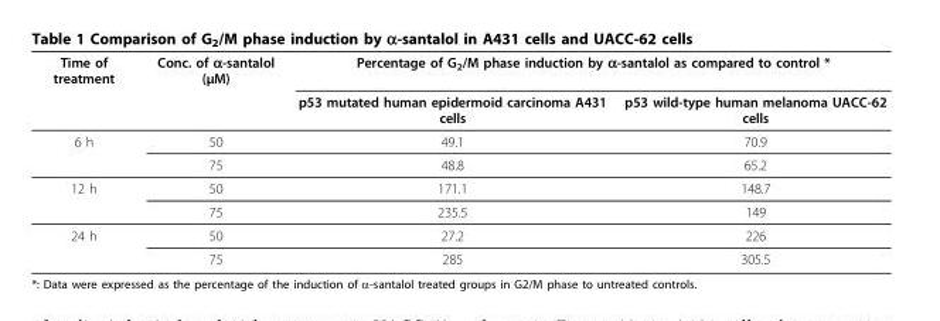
<table><thead><tr><td rowspan="2">Time of treatment</td><td rowspan="2">Conc. of α-santalol (μM)</td><td colspan="2">Percentage of G<sub>2</sub>/M phase induction by α-santalol as compared to control *</td></tr><tr><td>p53 mutated human epidermoid carcinoma A431 cells</td><td>p53 wild-type human melanoma UACC-62 cells</td></tr></thead><tbody><tr><td rowspan="2">6 h</td><td>50</td><td>49.1</td><td>70.9</td></tr><tr><td>75</td><td>48.8</td><td>65.2</td></tr><tr><td rowspan="2">12 h</td><td>50</td><td>171.1</td><td>148.7</td></tr><tr><td>75</td><td>235.5</td><td>149</td></tr><tr><td rowspan="2">24 h</td><td>50</td><td>27.2</td><td>226</td></tr><tr><td>75</td><td>285</td><td>305.5</td></tr></tbody></table>